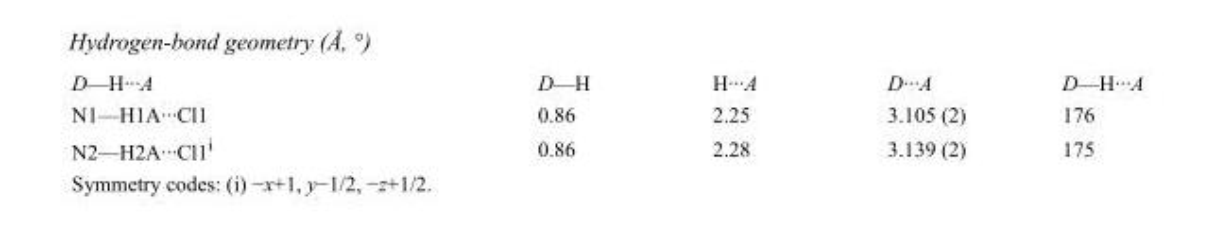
<table><tbody><tr><td>D—H···A</td><td>D—H</td><td>H···A</td><td>D···A</td><td>D—H···A</td></tr><tr><td>N1—H1A···Cl1</td><td>0.86</td><td>2.25</td><td>3.105 (2)</td><td>176</td></tr><tr><td>N2—H2A···Cl1<sup>i</sup></td><td>0.86</td><td>2.28</td><td>3.139 (2)</td><td>175</td></tr></tbody></table>